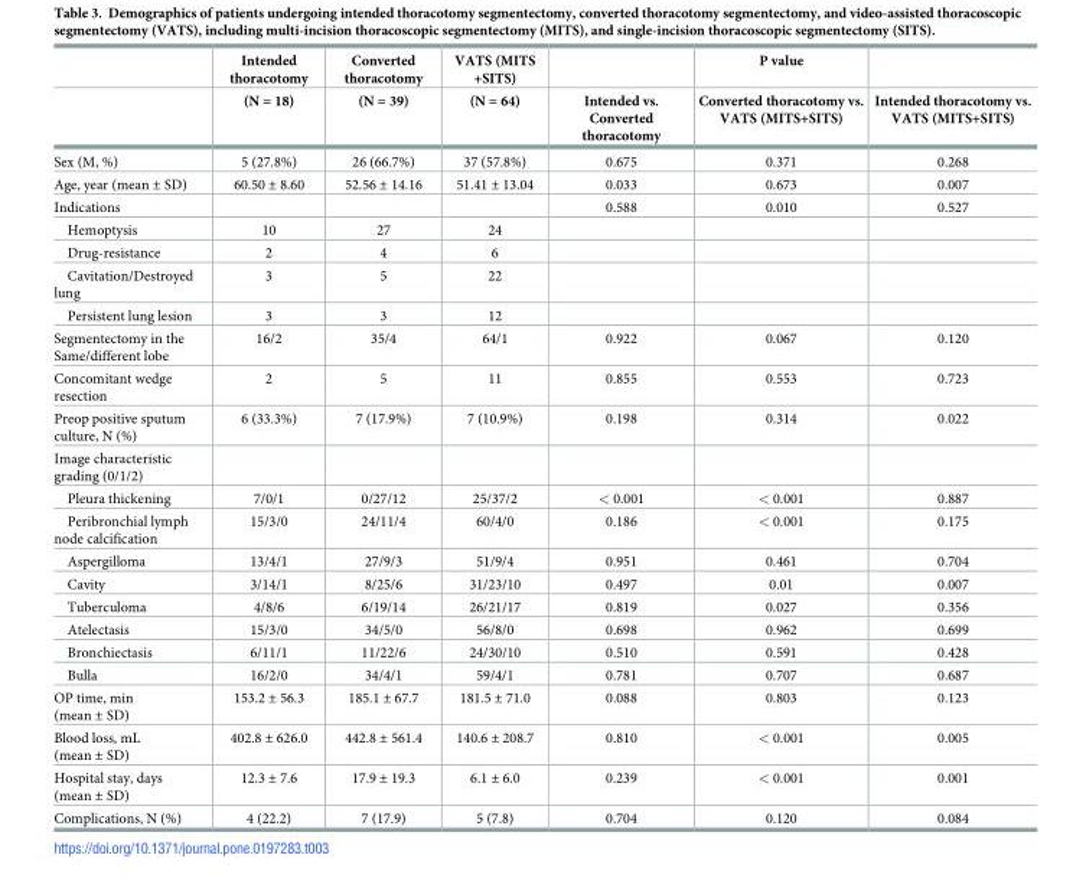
<table><thead><tr><td rowspan="2"></td><td rowspan="2">Intended thoracotomy (N = 18)</td><td rowspan="2">Converted thoracotomy (N = 39)</td><td rowspan="2">VATS (MITS +SITS) (N = 64)</td><td rowspan="2">Intended vs. Converted thoracotomy</td><td rowspan="2">P value Converted thoracotomy vs. VATS (MITS+SITS)</td><td rowspan="2">Intended thoracotomy vs. VATS (MITS+SITS)</td></tr><tr></tr></thead><tbody><tr><td>Sex (M, %)</td><td>5 (27.8%)</td><td>26 (66.7%)</td><td>37 (57.8%)</td><td>0.675</td><td>0.371</td><td>0.268</td></tr><tr><td>Age, year (mean ± SD)</td><td>60.50 ± 8.60</td><td>52.56 ± 14.16</td><td>51.41 ± 13.04</td><td>0.033</td><td>0.673</td><td>0.007</td></tr><tr><td>Indications</td><td></td><td></td><td></td><td>0.588</td><td>0.010</td><td>0.527</td></tr><tr><td>Hemoptysis</td><td>10</td><td>27</td><td>24</td><td></td><td></td><td></td></tr><tr><td>Drug-resistance</td><td>2</td><td>4</td><td>6</td><td></td><td></td><td></td></tr><tr><td>Cavitation/Destroyed lung</td><td>3</td><td>5</td><td>22</td><td></td><td></td><td></td></tr><tr><td>Persistent lung lesion</td><td>3</td><td>3</td><td>12</td><td></td><td></td><td></td></tr><tr><td>Segmentectomy in the Same/different lobe</td><td>16/2</td><td>35/4</td><td>64/1</td><td>0.922</td><td>0.067</td><td>0.120</td></tr><tr><td>Concomitant wedge resection</td><td>2</td><td>5</td><td>11</td><td>0.855</td><td>0.553</td><td>0.723</td></tr><tr><td>Preop positive sputum culture, N (%)</td><td>6 (33.3%)</td><td>7 (17.9%)</td><td>7 (10.9%)</td><td>0.198</td><td>0.314</td><td>0.022</td></tr><tr><td colspan="7">Image characteristic grading (0/1/2)</td></tr><tr><td>Pleura thickening</td><td>7/0/1</td><td>0/27/12</td><td>25/37/2</td><td>&lt; 0.001</td><td>&lt; 0.001</td><td>0.887</td></tr><tr><td>Peribronchial lymph node calcification</td><td>15/3/0</td><td>24/11/4</td><td>60/4/0</td><td>0.186</td><td>&lt; 0.001</td><td>0.175</td></tr><tr><td>Aspergilloma</td><td>13/4/1</td><td>27/9/3</td><td>51/9/4</td><td>0.951</td><td>0.461</td><td>0.704</td></tr><tr><td>Cavity</td><td>3/14/1</td><td>8/25/6</td><td>31/23/10</td><td>0.497</td><td>0.01</td><td>0.007</td></tr><tr><td>Tuberculoma</td><td>4/8/6</td><td>6/19/14</td><td>26/21/17</td><td>0.819</td><td>0.027</td><td>0.356</td></tr><tr><td>Atelectasis</td><td>15/3/0</td><td>34/5/0</td><td>56/8/0</td><td>0.698</td><td>0.962</td><td>0.699</td></tr><tr><td>Bronchiectasis</td><td>6/11/1</td><td>11/22/6</td><td>24/30/10</td><td>0.510</td><td>0.591</td><td>0.428</td></tr><tr><td>Bulla</td><td>16/2/0</td><td>34/4/1</td><td>59/4/1</td><td>0.781</td><td>0.707</td><td>0.687</td></tr><tr><td>OP time, min (mean ± SD)</td><td>153.2 ± 56.3</td><td>185.1 ± 67.7</td><td>181.5 ± 71.0</td><td>0.088</td><td>0.803</td><td>0.123</td></tr><tr><td>Blood loss, mL (mean ± SD)</td><td>402.8 ± 626.0</td><td>442.8 ± 561.4</td><td>140.6 ± 208.7</td><td>0.810</td><td>&lt; 0.001</td><td>0.005</td></tr><tr><td>Hospital stay, days (mean ± SD)</td><td>12.3 ± 7.6</td><td>17.9 ± 19.3</td><td>6.1 ± 6.0</td><td>0.239</td><td>&lt; 0.001</td><td>0.001</td></tr><tr><td>Complications, N (%)</td><td>4 (22.2)</td><td>7 (17.9)</td><td>5 (7.8)</td><td>0.704</td><td>0.120</td><td>0.084</td></tr></tbody></table>